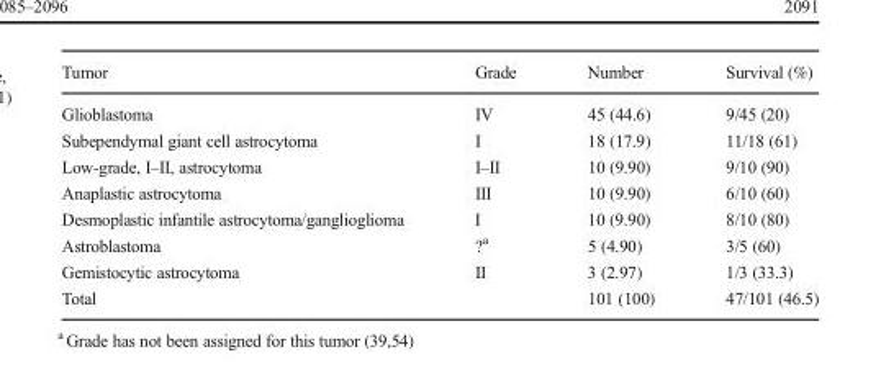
<table><thead><tr><td>Tumor</td><td>Grade</td><td>Number</td><td>Survival (%)</td></tr></thead><tbody><tr><td>Glioblastoma</td><td>IV</td><td>45 (44.6)</td><td>9/45 (20)</td></tr><tr><td>Subependymal giant cell astrocytoma</td><td>I</td><td>18 (17.9)</td><td>11/18 (61)</td></tr><tr><td>Low-grade, I–II, astrocytoma</td><td>I–II</td><td>10 (9.90)</td><td>9/10 (90)</td></tr><tr><td>Anaplastic astrocytoma</td><td>III</td><td>10 (9.90)</td><td>6/10 (60)</td></tr><tr><td>Desmoplastic infantile astrocytoma/ganglioglioma</td><td>I</td><td>10 (9.90)</td><td>8/10 (80)</td></tr><tr><td>Astroblastoma</td><td>?<sup>a</sup></td><td>5 (4.90)</td><td>3/5 (60)</td></tr><tr><td>Gemistocytic astrocytoma</td><td>II</td><td>3 (2.97)</td><td>1/3 (33.3)</td></tr><tr><td>Total</td><td></td><td>101 (100)</td><td>47/101 (46.5)</td></tr></tbody></table>